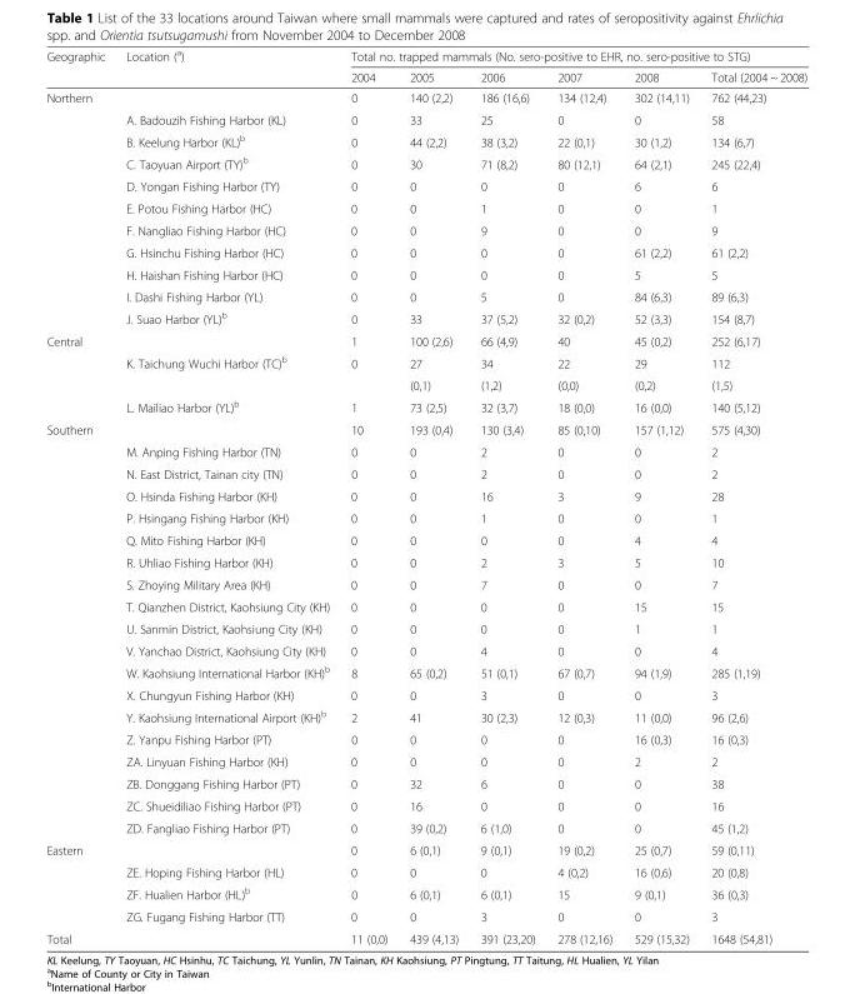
<table><thead><tr><td rowspan="2">Geographic</td><td rowspan="2">Location (<sup>a</sup>)</td><td colspan="6">Total no. trapped mammals (No. sero-positive to EHR, no. sero-positive to STG)</td></tr><tr><td>2004</td><td>2005</td><td>2006</td><td>2007</td><td>2008</td><td>Total (2004 ~ 2008)</td></tr></thead><tbody><tr><td rowspan="11">Northern</td><td></td><td>0</td><td>140 (2,2)</td><td>186 (16,6)</td><td>134 (12,4)</td><td>302 (14,11)</td><td>762 (44,23)</td></tr><tr><td>A. Badouzih Fishing Harbor (KL)</td><td>0</td><td>33</td><td>25</td><td>0</td><td>0</td><td>58</td></tr><tr><td>B. Keelung Harbor (KL)<sup>b</sup></td><td>0</td><td>44 (2,2)</td><td>38 (3,2)</td><td>22 (0,1)</td><td>30 (1,2)</td><td>134 (6,7)</td></tr><tr><td>C. Taoyuan Airport (TY)<sup>b</sup></td><td>0</td><td>30</td><td>71 (8,2)</td><td>80 (12,1)</td><td>64 (2,1)</td><td>245 (22,4)</td></tr><tr><td>D. Yongan Fishing Harbor (TY)</td><td>0</td><td>0</td><td>0</td><td>0</td><td>6</td><td>6</td></tr><tr><td>E. Potou Fishing Harbor (HC)</td><td>0</td><td>0</td><td>1</td><td>0</td><td>0</td><td>1</td></tr><tr><td>F. Nangliao Fishing Harbor (HC)</td><td>0</td><td>0</td><td>9</td><td>0</td><td>0</td><td>9</td></tr><tr><td>G. Hsinchu Fishing Harbor (HC)</td><td>0</td><td>0</td><td>0</td><td>0</td><td>61 (2,2)</td><td>61 (2,2)</td></tr><tr><td>H. Haishan Fishing Harbor (HC)</td><td>0</td><td>0</td><td>0</td><td>0</td><td>5</td><td>5</td></tr><tr><td>I. Dashi Fishing Harbor (YL)</td><td>0</td><td>0</td><td>5</td><td>0</td><td>84 (6,3)</td><td>89 (6,3)</td></tr><tr><td>J. Suao Harbor (YL)<sup>b</sup></td><td>0</td><td>33</td><td>37 (5,2)</td><td>32 (0,2)</td><td>52 (3,3)</td><td>154 (8,7)</td></tr><tr><td rowspan="4">Central</td><td></td><td>1</td><td>100 (2,6)</td><td>66 (4,9)</td><td>40</td><td>45 (0,2)</td><td>252 (6,17)</td></tr><tr><td>K. Taichung Wuchi Harbor (TC)<sup>b</sup></td><td>0</td><td>27</td><td>34</td><td>22</td><td>29</td><td>112</td></tr><tr><td></td><td></td><td>(0,1)</td><td>(1,2)</td><td>(0,0)</td><td>(0,2)</td><td>(1,5)</td></tr><tr><td>L. Mailiao Harbor (YL)<sup>b</sup></td><td>1</td><td>73 (2,5)</td><td>32 (3,7)</td><td>18 (0,0)</td><td>16 (0,0)</td><td>140 (5,12)</td></tr><tr><td rowspan="19">Southern</td><td></td><td>10</td><td>193 (0,4)</td><td>130 (3,4)</td><td>85 (0,10)</td><td>157 (1,12)</td><td>575 (4,30)</td></tr><tr><td>M. Anping Fishing Harbor (TN)</td><td>0</td><td>0</td><td>2</td><td>0</td><td>0</td><td>2</td></tr><tr><td>N. East District, Tainan city (TN)</td><td>0</td><td>0</td><td>2</td><td>0</td><td>0</td><td>2</td></tr><tr><td>O. Hsinda Fishing Harbor (KH)</td><td>0</td><td>0</td><td>16</td><td>3</td><td>9</td><td>28</td></tr><tr><td>P. Hsingang Fishing Harbor (KH)</td><td>0</td><td>0</td><td>1</td><td>0</td><td>0</td><td>1</td></tr><tr><td>Q. Mito Fishing Harbor (KH)</td><td>0</td><td>0</td><td>0</td><td>0</td><td>4</td><td>4</td></tr><tr><td>R. Uhliao Fishing Harbor (KH)</td><td>0</td><td>0</td><td>2</td><td>3</td><td>5</td><td>10</td></tr><tr><td>S. Zhoying Military Area (KH)</td><td>0</td><td>0</td><td>7</td><td>0</td><td>0</td><td>7</td></tr><tr><td>T. Qianzhen District, Kaohsiung City (KH)</td><td>0</td><td>0</td><td>0</td><td>0</td><td>15</td><td>15</td></tr><tr><td>U. Sanmin District, Kaohsiung City (KH)</td><td>0</td><td>0</td><td>0</td><td>0</td><td>1</td><td>1</td></tr><tr><td>V. Yanchao District, Kaohsiung City (KH)</td><td>0</td><td>0</td><td>4</td><td>0</td><td>0</td><td>4</td></tr><tr><td>W. Kaohsiung International Harbor (KH)<sup>b</sup></td><td>8</td><td>65 (0,2)</td><td>51 (0,1)</td><td>67 (0,7)</td><td>94 (1,9)</td><td>285 (1,19)</td></tr><tr><td>X. Chungyun Fishing Harbor (KH)</td><td>0</td><td>0</td><td>3</td><td>0</td><td>0</td><td>3</td></tr><tr><td>Y. Kaohsiung International Airport (KH)<sup>b</sup></td><td>2</td><td>41</td><td>30 (2,3)</td><td>12 (0,3)</td><td>11 (0,0)</td><td>96 (2,6)</td></tr><tr><td>Z. Yanpu Fishing Harbor (PT)</td><td>0</td><td>0</td><td>0</td><td>0</td><td>16 (0,3)</td><td>16 (0,3)</td></tr><tr><td>ZA. Linyuan Fishing Harbor (KH)</td><td>0</td><td>0</td><td>0</td><td>0</td><td>2</td><td>2</td></tr><tr><td>ZB. Donggang Fishing Harbor (PT)</td><td>0</td><td>32</td><td>6</td><td>0</td><td>0</td><td>38</td></tr><tr><td>ZC. Shueidiliao Fishing Harbor (PT)</td><td>0</td><td>16</td><td>0</td><td>0</td><td>0</td><td>16</td></tr><tr><td>ZD. Fangliao Fishing Harbor (PT)</td><td>0</td><td>39 (0,2)</td><td>6 (1,0)</td><td>0</td><td>0</td><td>45 (1,2)</td></tr><tr><td rowspan="4">Eastern</td><td></td><td>0</td><td>6 (0,1)</td><td>9 (0,1)</td><td>19 (0,2)</td><td>25 (0,7)</td><td>59 (0,11)</td></tr><tr><td>ZE. Hoping Fishing Harbor (HL)</td><td>0</td><td>0</td><td>0</td><td>4 (0,2)</td><td>16 (0,6)</td><td>20 (0,8)</td></tr><tr><td>ZF. Hualien Harbor (HL)<sup>b</sup></td><td>0</td><td>6 (0,1)</td><td>6 (0,1)</td><td>15</td><td>9 (0,1)</td><td>36 (0,3)</td></tr><tr><td>ZG. Fugang Fishing Harbor (TT)</td><td>0</td><td>0</td><td>3</td><td>0</td><td>0</td><td>3</td></tr><tr><td>Total</td><td></td><td>11 (0,0)</td><td>439 (4,13)</td><td>391 (23,20)</td><td>278 (12,16)</td><td>529 (15,32)</td><td>1648 (54,81)</td></tr></tbody></table>